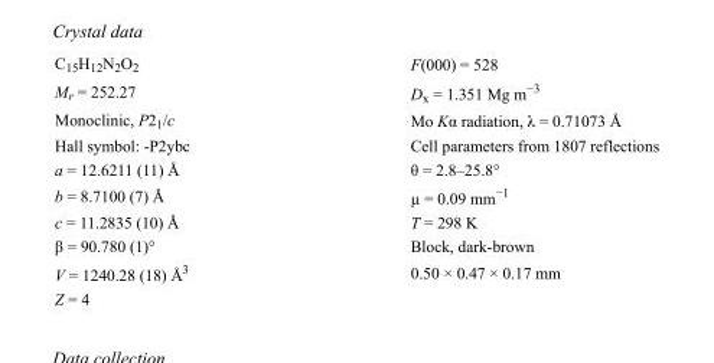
<table><tbody><tr><td>C<sub>15</sub>H<sub>12</sub>N<sub>2</sub>O<sub>2</sub></td><td>F(000) = 528</td></tr><tr><td>M<sub>r</sub> = 252.27</td><td>D<sub>x</sub> = 1.351 Mg m<sup>−3</sup></td></tr><tr><td>Monoclinic, P2<sub>1</sub>/c</td><td>Mo Kα radiation, λ = 0.71073 Å</td></tr><tr><td>Hall symbol: -P2ybc</td><td>Cell parameters from 1807 reflections</td></tr><tr><td>a = 12.6211 (11) Å</td><td>θ = 2.8–25.8°</td></tr><tr><td>b = 8.7100 (7) Å</td><td>µ = 0.09 mm<sup>−1</sup></td></tr><tr><td>c = 11.2835 (10) Å</td><td>T = 298 K</td></tr><tr><td>β = 90.780 (1)°</td><td>Block, dark-brown</td></tr><tr><td>V = 1240.28 (18) Å<sup>3</sup></td><td>0.50 × 0.47 × 0.17 mm</td></tr><tr><td>Z = 4</td><td></td></tr></tbody></table>